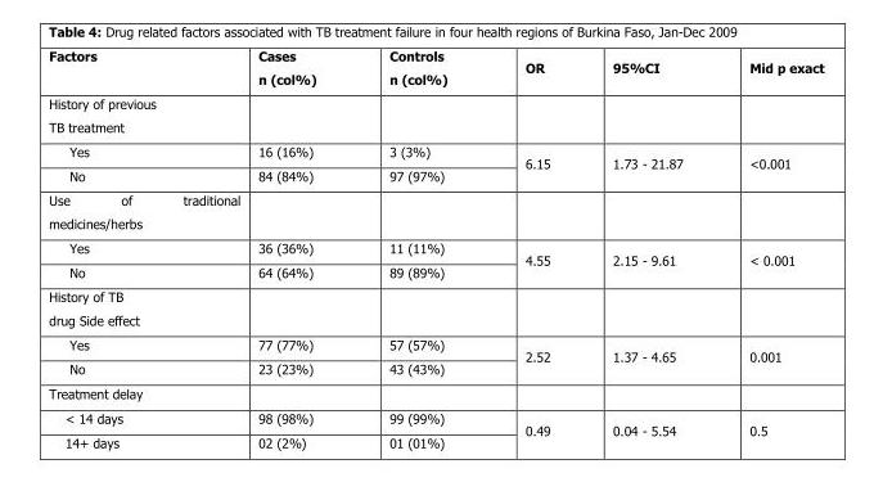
<table><thead><tr><td>Factors</td><td>Cases n (col%)</td><td>Controls n (col%)</td><td>OR</td><td>95%CI</td><td>Mid p exact</td></tr></thead><tbody><tr><td colspan="6">History of previous TB treatment</td></tr><tr><td>Yes</td><td>16 (16%)</td><td>3 (3%)</td><td rowspan="2">6.15</td><td rowspan="2">1.73 - 21.87</td><td rowspan="2">&lt;0.001</td></tr><tr><td>No</td><td>84 (84%)</td><td>97 (97%)</td></tr><tr><td colspan="6">Use of traditional medicines/herbs</td></tr><tr><td>Yes</td><td>36 (36%)</td><td>11 (11%)</td><td rowspan="2">4.55</td><td rowspan="2">2.15 - 9.61</td><td rowspan="2">&lt; 0.001</td></tr><tr><td>No</td><td>64 (64%)</td><td>89 (89%)</td></tr><tr><td colspan="6">History of TB drug Side effect</td></tr><tr><td>Yes</td><td>77 (77%)</td><td>57 (57%)</td><td rowspan="2">2.52</td><td rowspan="2">1.37 - 4.65</td><td rowspan="2">0.001</td></tr><tr><td>No</td><td>23 (23%)</td><td>43 (43%)</td></tr><tr><td colspan="6">Treatment delay</td></tr><tr><td>&lt; 14 days</td><td>98 (98%)</td><td>99 (99%)</td><td rowspan="2">0.49</td><td rowspan="2">0.04 - 5.54</td><td rowspan="2">0.5</td></tr><tr><td>14+ days</td><td>02 (2%)</td><td>01 (01%)</td></tr></tbody></table>